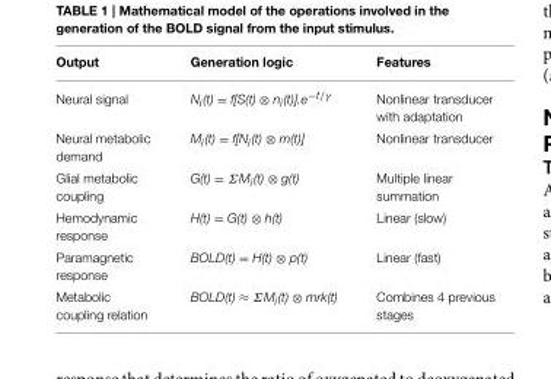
<table><thead><tr><td>Output</td><td>Generation logic</td><td>Features</td></tr></thead><tbody><tr><td>Neural signal</td><td>Ni(t) = f[S(t) ⊗ ni(t)].e−t/γ</td><td>Nonlinear transducer with adaptation</td></tr><tr><td>Neural metabolic demand</td><td>Mi(t) = f[Ni(t) ⊗ m(t)]</td><td>Nonlinear transducer</td></tr><tr><td>Glial metabolic coupling</td><td>G(t) = ΣMi(t) ⊗ g(t)</td><td>Multiple linear summation</td></tr><tr><td>Hemodynamic response</td><td>H(t) = G(t) ⊗ h(t)</td><td>Linear (slow)</td></tr><tr><td>Paramagnetic response</td><td>BOLD(t) = H(t) ⊗ p(t)</td><td>Linear (fast)</td></tr><tr><td>Metabolic coupling relation</td><td>BOLD(t) ≈ ΣMi(t) ⊗ mrk(t)</td><td>Combines 4 previous stages</td></tr></tbody></table>